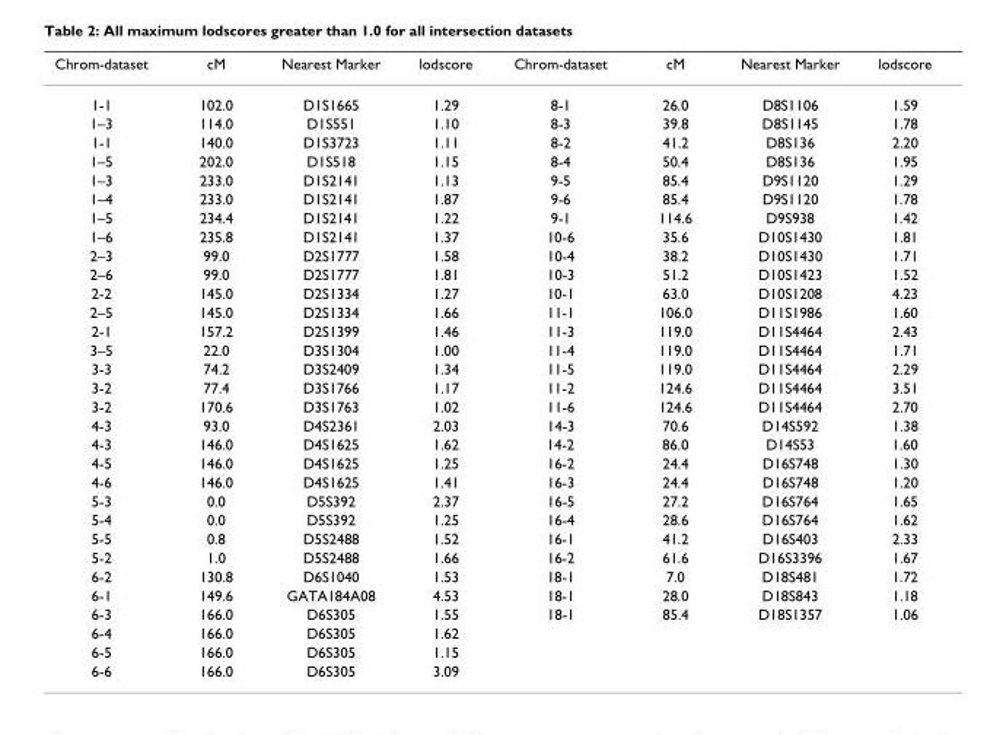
<table><thead><tr><td>Chrom-dataset</td><td>cM</td><td>Nearest Marker</td><td>lodscore</td><td>Chrom-dataset</td><td>cM</td><td>Nearest Marker</td><td>lodscore</td></tr></thead><tbody><tr><td>1-1</td><td>102.0</td><td>D1S1665</td><td>1.29</td><td>8-1</td><td>26.0</td><td>D8S1106</td><td>1.59</td></tr><tr><td>1–3</td><td>114.0</td><td>D1S551</td><td>1.10</td><td>8-3</td><td>39.8</td><td>D8S1145</td><td>1.78</td></tr><tr><td>1-1</td><td>140.0</td><td>D1S3723</td><td>1.11</td><td>8-2</td><td>41.2</td><td>D8S136</td><td>2.20</td></tr><tr><td>1–5</td><td>202.0</td><td>D1S518</td><td>1.15</td><td>8-4</td><td>50.4</td><td>D8S136</td><td>1.95</td></tr><tr><td>1–3</td><td>233.0</td><td>D1S2141</td><td>1.13</td><td>9-5</td><td>85.4</td><td>D9S1120</td><td>1.29</td></tr><tr><td>1–4</td><td>233.0</td><td>D1S2141</td><td>1.87</td><td>9-6</td><td>85.4</td><td>D9S1120</td><td>1.78</td></tr><tr><td>1–5</td><td>234.4</td><td>D1S2141</td><td>1.22</td><td>9-1</td><td>114.6</td><td>D9S938</td><td>1.42</td></tr><tr><td>1–6</td><td>235.8</td><td>D1S2141</td><td>1.37</td><td>10-6</td><td>35.6</td><td>D10S1430</td><td>1.81</td></tr><tr><td>2–3</td><td>99.0</td><td>D2S1777</td><td>1.58</td><td>10-4</td><td>38.2</td><td>D10S1430</td><td>1.71</td></tr><tr><td>2–6</td><td>99.0</td><td>D2S1777</td><td>1.81</td><td>10-3</td><td>51.2</td><td>D10S1423</td><td>1.52</td></tr><tr><td>2-2</td><td>145.0</td><td>D2S1334</td><td>1.27</td><td>10-1</td><td>63.0</td><td>D10S1208</td><td>4.23</td></tr><tr><td>2–5</td><td>145.0</td><td>D2S1334</td><td>1.66</td><td>11-1</td><td>106.0</td><td>D11S1986</td><td>1.60</td></tr><tr><td>2-1</td><td>157.2</td><td>D2S1399</td><td>1.46</td><td>11-3</td><td>119.0</td><td>D11S4464</td><td>2.43</td></tr><tr><td>3–5</td><td>22.0</td><td>D3S1304</td><td>1.00</td><td>11-4</td><td>119.0</td><td>D11S4464</td><td>1.71</td></tr><tr><td>3-3</td><td>74.2</td><td>D3S2409</td><td>1.34</td><td>11-5</td><td>119.0</td><td>D11S4464</td><td>2.29</td></tr><tr><td>3-2</td><td>77.4</td><td>D3S1766</td><td>1.17</td><td>11-2</td><td>124.6</td><td>D11S4464</td><td>3.51</td></tr><tr><td>3-2</td><td>170.6</td><td>D3S1763</td><td>1.02</td><td>11-6</td><td>124.6</td><td>D11S4464</td><td>2.70</td></tr><tr><td>4-3</td><td>93.0</td><td>D4S2361</td><td>2.03</td><td>14-3</td><td>70.6</td><td>D14S592</td><td>1.38</td></tr><tr><td>4-3</td><td>146.0</td><td>D4S1625</td><td>1.62</td><td>14-2</td><td>86.0</td><td>D14S53</td><td>1.60</td></tr><tr><td>4-5</td><td>146.0</td><td>D4S1625</td><td>1.25</td><td>16-2</td><td>24.4</td><td>D16S748</td><td>1.30</td></tr><tr><td>4-6</td><td>146.0</td><td>D4S1625</td><td>1.41</td><td>16-3</td><td>24.4</td><td>D16S748</td><td>1.20</td></tr><tr><td>5-3</td><td>0.0</td><td>D5S392</td><td>2.37</td><td>16-5</td><td>27.2</td><td>D16S764</td><td>1.65</td></tr><tr><td>5-4</td><td>0.0</td><td>D5S392</td><td>1.25</td><td>16-4</td><td>28.6</td><td>D16S764</td><td>1.62</td></tr><tr><td>5-5</td><td>0.8</td><td>D5S2488</td><td>1.52</td><td>16-1</td><td>41.2</td><td>D16S403</td><td>2.33</td></tr><tr><td>5-2</td><td>1.0</td><td>D5S2488</td><td>1.66</td><td>16-2</td><td>61.6</td><td>D16S3396</td><td>1.67</td></tr><tr><td>6-2</td><td>130.8</td><td>D6S1040</td><td>1.53</td><td>18-1</td><td>7.0</td><td>D18S481</td><td>1.72</td></tr><tr><td>6-1</td><td>149.6</td><td>GATA184A08</td><td>4.53</td><td>18-1</td><td>28.0</td><td>D18S843</td><td>1.18</td></tr><tr><td>6-3</td><td>166.0</td><td>D6S305</td><td>1.55</td><td>18-1</td><td>85.4</td><td>D18S1357</td><td>1.06</td></tr><tr><td>6-4</td><td>166.0</td><td>D6S305</td><td>1.62</td><td></td><td></td><td></td><td></td></tr><tr><td>6-5</td><td>166.0</td><td>D6S305</td><td>1.15</td><td></td><td></td><td></td><td></td></tr><tr><td>6-6</td><td>166.0</td><td>D6S305</td><td>3.09</td><td></td><td></td><td></td><td></td></tr></tbody></table>